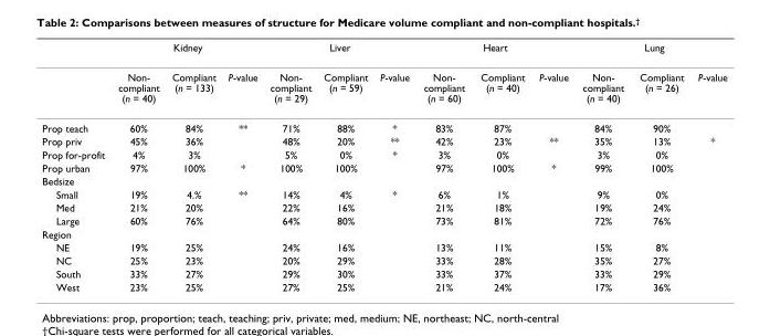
<table><thead><tr><td rowspan="2"></td><td colspan="3">Kidney</td><td colspan="3">Liver</td><td colspan="3">Heart</td><td colspan="3">Lung</td></tr><tr><td>Non- compliant (n = 40)</td><td>Compliant (n = 133)</td><td>P-value</td><td>Non- compliant (n = 29)</td><td>Compliant (n = 59)</td><td>P-value</td><td>Non- compliant (n = 60)</td><td>Compliant (n = 40)</td><td>P-value</td><td>Non- compliant (n = 40)</td><td>Compliant (n = 26)</td><td>P-value</td></tr></thead><tbody><tr><td>Prop teach</td><td>60%</td><td>84%</td><td>**</td><td>71%</td><td>88%</td><td>*</td><td>83%</td><td>87%</td><td></td><td>84%</td><td>90%</td><td></td></tr><tr><td>Prop priv</td><td>45%</td><td>36%</td><td></td><td>48%</td><td>20%</td><td>**</td><td>42%</td><td>23%</td><td>**</td><td>35%</td><td>13%</td><td>*</td></tr><tr><td>Prop for-profit</td><td>4%</td><td>3%</td><td></td><td>5%</td><td>0%</td><td>*</td><td>3%</td><td>0%</td><td></td><td>3%</td><td>0%</td><td></td></tr><tr><td>Prop urban</td><td>97%</td><td>100%</td><td>*</td><td>100%</td><td>100%</td><td></td><td>97%</td><td>100%</td><td>*</td><td>99%</td><td>100%</td><td></td></tr><tr><td colspan="13">Bedsize</td></tr><tr><td>Small</td><td>19%</td><td>4.%</td><td>**</td><td>14%</td><td>4%</td><td>*</td><td>6%</td><td>1%</td><td></td><td>9%</td><td>0%</td><td></td></tr><tr><td>Med</td><td>21%</td><td>20%</td><td></td><td>22%</td><td>16%</td><td></td><td>21%</td><td>18%</td><td></td><td>19%</td><td>24%</td><td></td></tr><tr><td>Large</td><td>60%</td><td>76%</td><td></td><td>64%</td><td>80%</td><td></td><td>73%</td><td>81%</td><td></td><td>72%</td><td>76%</td><td></td></tr><tr><td colspan="13">Region</td></tr><tr><td>NE</td><td>19%</td><td>25%</td><td></td><td>24%</td><td>16%</td><td></td><td>13%</td><td>11%</td><td></td><td>15%</td><td>8%</td><td></td></tr><tr><td>NC</td><td>25%</td><td>23%</td><td></td><td>20%</td><td>29%</td><td></td><td>33%</td><td>28%</td><td></td><td>35%</td><td>27%</td><td></td></tr><tr><td>South</td><td>33%</td><td>27%</td><td></td><td>29%</td><td>30%</td><td></td><td>33%</td><td>37%</td><td></td><td>33%</td><td>29%</td><td></td></tr><tr><td>West</td><td>23%</td><td>25%</td><td></td><td>27%</td><td>25%</td><td></td><td>21%</td><td>24%</td><td></td><td>17%</td><td>36%</td><td></td></tr></tbody></table>